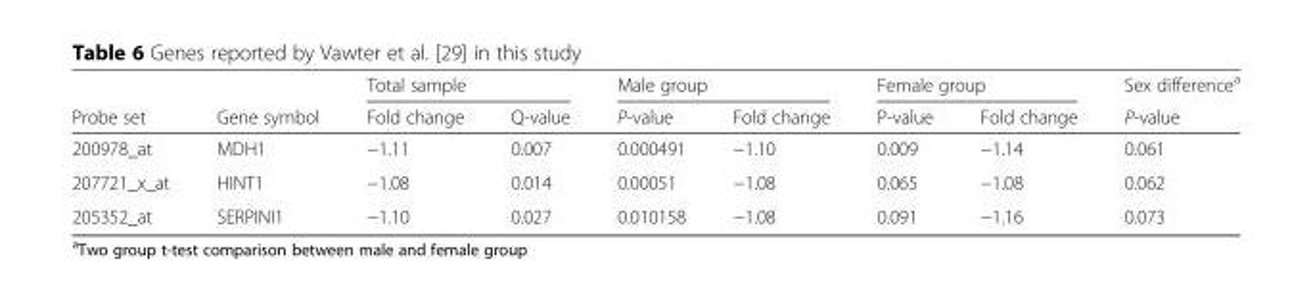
<table><thead><tr><td rowspan="2">Probe set</td><td rowspan="2">Gene symbol</td><td colspan="2">Total sample</td><td colspan="2">Male group</td><td colspan="2">Female group</td><td rowspan="2">Sex differencea P-value</td></tr><tr><td>Fold change</td><td>Q-value</td><td>P-value</td><td>Fold change</td><td>P-value</td><td>Fold change</td></tr></thead><tbody><tr><td>200978_at</td><td>MDH1</td><td>−1.11</td><td>0.007</td><td>0.000491</td><td>−1.10</td><td>0.009</td><td>−1.14</td><td>0.061</td></tr><tr><td>207721_x_at</td><td>HINT1</td><td>−1.08</td><td>0.014</td><td>0.00051</td><td>−1.08</td><td>0.065</td><td>−1.08</td><td>0.062</td></tr><tr><td>205352_at</td><td>SERPINI1</td><td>−1.10</td><td>0.027</td><td>0.010158</td><td>−1.08</td><td>0.091</td><td>−1.16</td><td>0.073</td></tr></tbody></table>